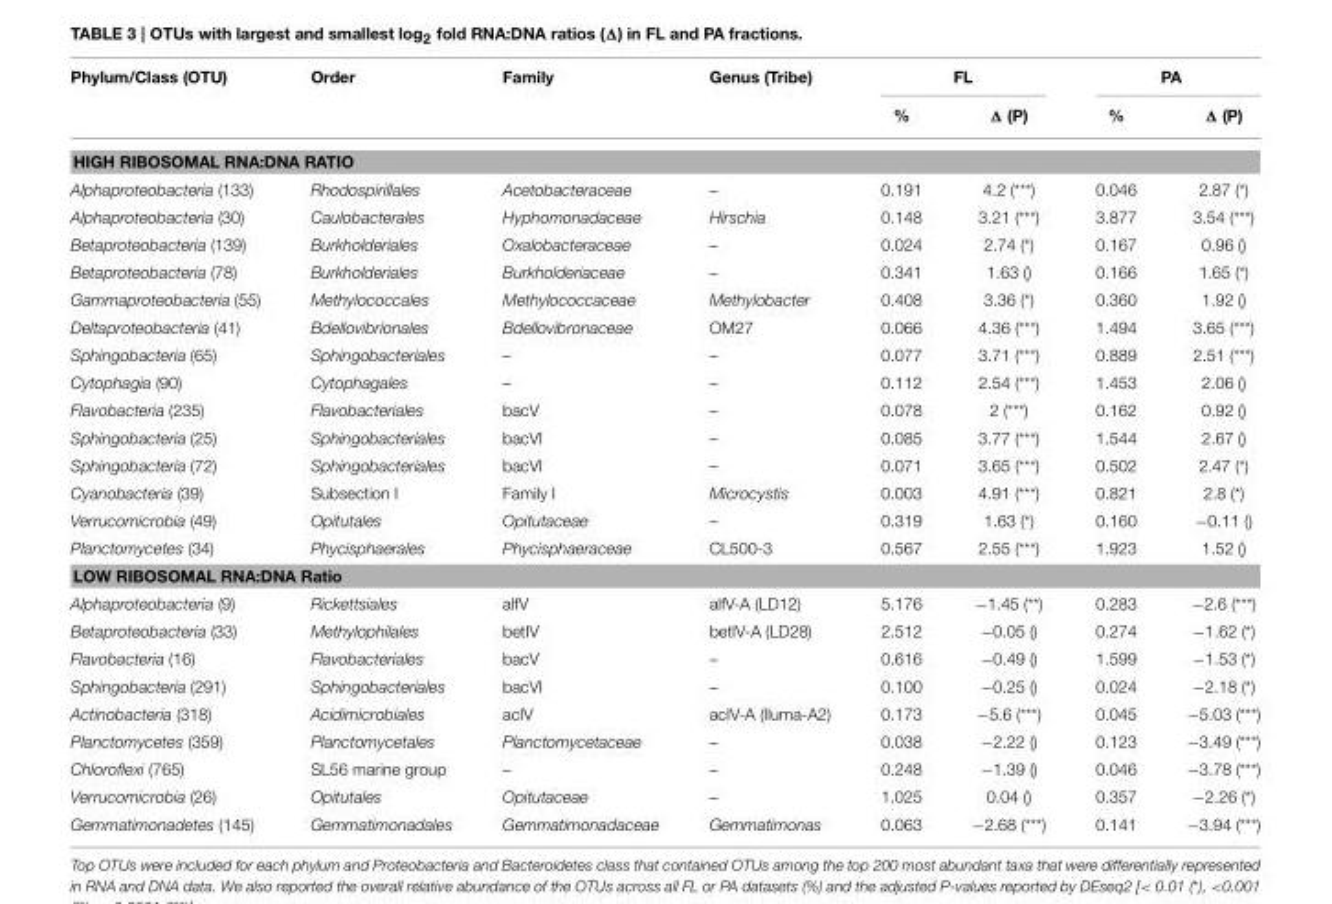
<table><thead><tr><td rowspan="2">Phylum/Class (OTU)</td><td rowspan="2">Order</td><td rowspan="2">Family</td><td rowspan="2">Genus (Tribe)</td><td colspan="2">FL</td><td colspan="2">PA</td></tr><tr><td>%</td><td>Δ (P)</td><td>%</td><td>Δ (P)</td></tr></thead><tbody><tr><td colspan="8">HIGH RIBOSOMAL RNA:DNA RATIO</td></tr><tr><td>Alphaproteobacteria (133)</td><td>Rhodospirillales</td><td>Acetobacteraceae</td><td>–</td><td>0.191</td><td>4.2 (***)</td><td>0.046</td><td>2.87 (*)</td></tr><tr><td>Alphaproteobacteria (30)</td><td>Caulobacterales</td><td>Hyphomonadaceae</td><td>Hirschia</td><td>0.148</td><td>3.21 (***)</td><td>3.877</td><td>3.54 (***)</td></tr><tr><td>Betaproteobacteria (139)</td><td>Burkholderiales</td><td>Oxalobacteraceae</td><td>–</td><td>0.024</td><td>2.74 (*)</td><td>0.167</td><td>0.96 ()</td></tr><tr><td>Betaproteobacteria (78)</td><td>Burkholderiales</td><td>Burkholderiaceae</td><td>–</td><td>0.341</td><td>1.63 ()</td><td>0.166</td><td>1.65 (*)</td></tr><tr><td>Gammaproteobacteria (55)</td><td>Methylococcales</td><td>Methylococcaceae</td><td>Methylobacter</td><td>0.408</td><td>3.36 (*)</td><td>0.360</td><td>1.92 ()</td></tr><tr><td>Deltaproteobacteria (41)</td><td>Bdellovibrionales</td><td>Bdellovibronaceae</td><td>OM27</td><td>0.066</td><td>4.36 (***)</td><td>1.494</td><td>3.65 (***)</td></tr><tr><td>Sphingobacteria (65)</td><td>Sphingobacteriales</td><td>–</td><td>–</td><td>0.077</td><td>3.71 (***)</td><td>0.889</td><td>2.51 (***)</td></tr><tr><td>Cytophagia (90)</td><td>Cytophagales</td><td>–</td><td>–</td><td>0.112</td><td>2.54 (***)</td><td>1.453</td><td>2.06 ()</td></tr><tr><td>Flavobacteria (235)</td><td>Flavobacteriales</td><td>bacV</td><td>–</td><td>0.078</td><td>2 (***)</td><td>0.162</td><td>0.92 ()</td></tr><tr><td>Sphingobacteria (25)</td><td>Sphingobacteriales</td><td>bacVI</td><td>–</td><td>0.085</td><td>3.77 (***)</td><td>1.544</td><td>2.67 ()</td></tr><tr><td>Sphingobacteria (72)</td><td>Sphingobacteriales</td><td>bacVI</td><td>–</td><td>0.071</td><td>3.65 (***)</td><td>0.502</td><td>2.47 (*)</td></tr><tr><td>Cyanobacteria (39)</td><td>Subsection I</td><td>Family I</td><td>Microcystis</td><td>0.003</td><td>4.91 (***)</td><td>0.821</td><td>2.8 (*)</td></tr><tr><td>Verrucomicrobia (49)</td><td>Opitutales</td><td>Opitutaceae</td><td>–</td><td>0.319</td><td>1.63 (*)</td><td>0.160</td><td>−0.11 ()</td></tr><tr><td>Planctomycetes (34)</td><td>Phycisphaerales</td><td>Phycisphaeraceae</td><td>CL500-3</td><td>0.567</td><td>2.55 (***)</td><td>1.923</td><td>1.52 ()</td></tr><tr><td colspan="8">LOW RIBOSOMAL RNA:DNA Ratio</td></tr><tr><td>Alphaproteobacteria (9)</td><td>Rickettsiales</td><td>alfV</td><td>alfV-A (LD12)</td><td>5.176</td><td>−1.45 (**)</td><td>0.283</td><td>−2.6 (***)</td></tr><tr><td>Betaproteobacteria (33)</td><td>Methylophilales</td><td>betIV</td><td>betIV-A (LD28)</td><td>2.512</td><td>−0.05 ()</td><td>0.274</td><td>−1.62 (*)</td></tr><tr><td>Flavobacteria (16)</td><td>Flavobacteriales</td><td>bacV</td><td>–</td><td>0.616</td><td>−0.49 ()</td><td>1.599</td><td>−1.53 (*)</td></tr><tr><td>Sphingobacteria (291)</td><td>Sphingobacteriales</td><td>bacVI</td><td>–</td><td>0.100</td><td>−0.25 ()</td><td>0.024</td><td>−2.18 (*)</td></tr><tr><td>Actinobacteria (318)</td><td>Acidimicrobiales</td><td>acIV</td><td>acIV-A (Iluma-A2)</td><td>0.173</td><td>−5.6 (***)</td><td>0.045</td><td>−5.03 (***)</td></tr><tr><td>Planctomycetes (359)</td><td>Planctomycetales</td><td>Planctomycetaceae</td><td>–</td><td>0.038</td><td>−2.22 ()</td><td>0.123</td><td>−3.49 (***)</td></tr><tr><td>Chloroflexi (765)</td><td>SL56 marine group</td><td>–</td><td>–</td><td>0.248</td><td>−1.39 ()</td><td>0.046</td><td>−3.78 (***)</td></tr><tr><td>Verrucomicrobia (26)</td><td>Opitutales</td><td>Opitutaceae</td><td>–</td><td>1.025</td><td>0.04 ()</td><td>0.357</td><td>−2.26 (*)</td></tr><tr><td>Gemmatimonadetes (145)</td><td>Gemmatimonadales</td><td>Gemmatimonadaceae</td><td>Gemmatimonas</td><td>0.063</td><td>−2.68 (***)</td><td>0.141</td><td>−3.94 (***)</td></tr></tbody></table>